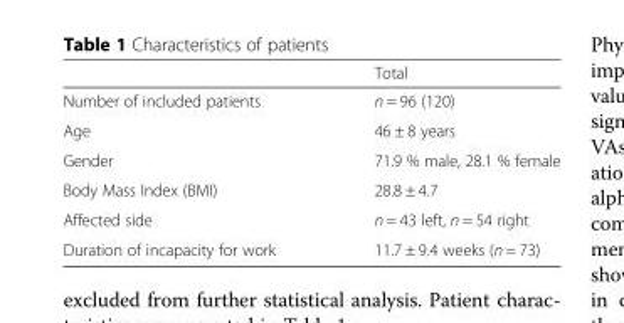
<table><thead><tr><td></td><td>Total</td></tr></thead><tbody><tr><td>Number of included patients</td><td>n = 96 (120)</td></tr><tr><td>Age</td><td>46 ± 8 years</td></tr><tr><td>Gender</td><td>71.9 % male, 28.1 % female</td></tr><tr><td>Body Mass Index (BMI)</td><td>28.8 ± 4.7</td></tr><tr><td>Affected side</td><td>n = 43 left, n = 54 right</td></tr><tr><td>Duration of incapacity for work</td><td>11.7 ± 9.4 weeks (n = 73)</td></tr></tbody></table>